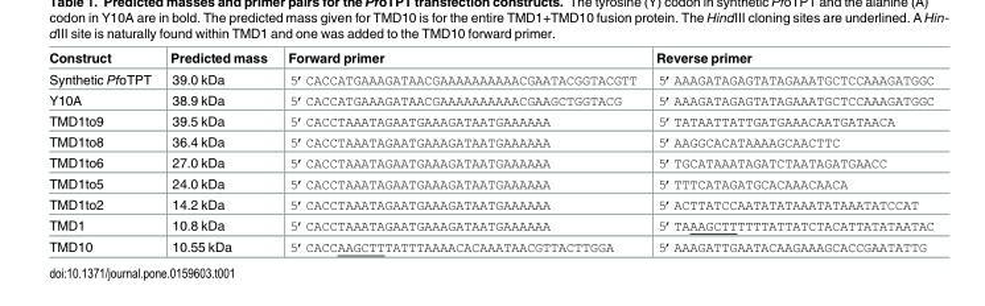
<table><thead><tr><td>Construct</td><td>Predicted mass</td><td>Forward primer</td><td>Reverse primer</td></tr></thead><tbody><tr><td>Synthetic PfoTPT</td><td>39.0 kDa</td><td>5’CACCATGAAAGATAACGAAAAAAAAAACGAATACGGTACGTT</td><td>5’AAAGATAGAGTATAGAAATGCTCCAAAGATGGC</td></tr><tr><td>Y10A</td><td>38.9 kDa</td><td>5’CACCATGAAAGATAACGAAAAAAAAAACGAAGCTGGTACG</td><td>5’AAAGATAGAGTATAGAAATGCTCCAAAGATGGC</td></tr><tr><td>TMD1to9</td><td>39.5 kDa</td><td>5’CACCTAAATAGAATGAAAGATAATGAAAAAA</td><td>5’TATAATTATTGATGAAACAATGATAACA</td></tr><tr><td>TMD1to8</td><td>36.4 kDa</td><td>5’CACCTAAATAGAATGAAAGATAATGAAAAAA</td><td>5’AAGGCACATAAAAGCAACTTC</td></tr><tr><td>TMD1to6</td><td>27.0 kDa</td><td>5’CACCTAAATAGAATGAAAGATAATGAAAAAA</td><td>5’TGCATAAATAGATCTAATAGATGAACC</td></tr><tr><td>TMD1to5</td><td>24.0 kDa</td><td>5’CACCTAAATAGAATGAAAGATAATGAAAAAA</td><td>5’TTTCATAGATGCACAAACAACA</td></tr><tr><td>TMD1to2</td><td>14.2 kDa</td><td>5’CACCTAAATAGAATGAAAGATAATGAAAAAA</td><td>5’ACTTATCCAATATATAAATATAAATATCCAT</td></tr><tr><td>TMD1</td><td>10.8 kDa</td><td>5’CACCTAAATAGAATGAAAGATAATGAAAAAA</td><td>5’TAAAGCTTTTTTATTATCTACATTATATAATAC</td></tr><tr><td>TMD10</td><td>10.55 kDa</td><td>5’CACCAAGCTTTATTTAAAACACAAATAACGTTACTTGGA</td><td>5’AAAGATTGAATACAAGAAAGCACCGAATATTG</td></tr></tbody></table>